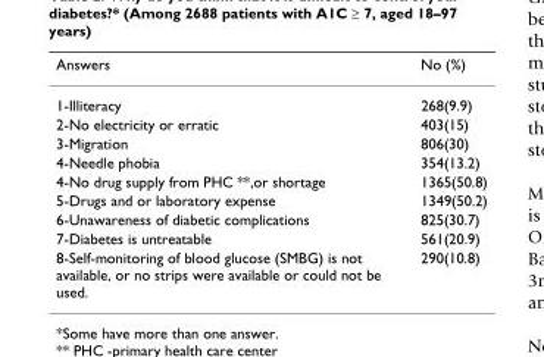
<table><thead><tr><td>Answers</td><td>No (%)</td></tr></thead><tbody><tr><td>1-Illiteracy</td><td>268(9.9)</td></tr><tr><td>2-No electricity or erratic</td><td>403(15)</td></tr><tr><td>3-Migration</td><td>806(30)</td></tr><tr><td>4-Needle phobia</td><td>354(13.2)</td></tr><tr><td>4-No drug supply from PHC **,or shortage</td><td>1365(50.8)</td></tr><tr><td>5-Drugs and or laboratory expense</td><td>1349(50.2)</td></tr><tr><td>6-Unawareness of diabetic complications</td><td>825(30.7)</td></tr><tr><td>7-Diabetes is untreatable</td><td>561(20.9)</td></tr><tr><td>8-Self-monitoring of blood glucose (SMBG) is not available, or no strips were available or could not be used.</td><td>290(10.8)</td></tr></tbody></table>